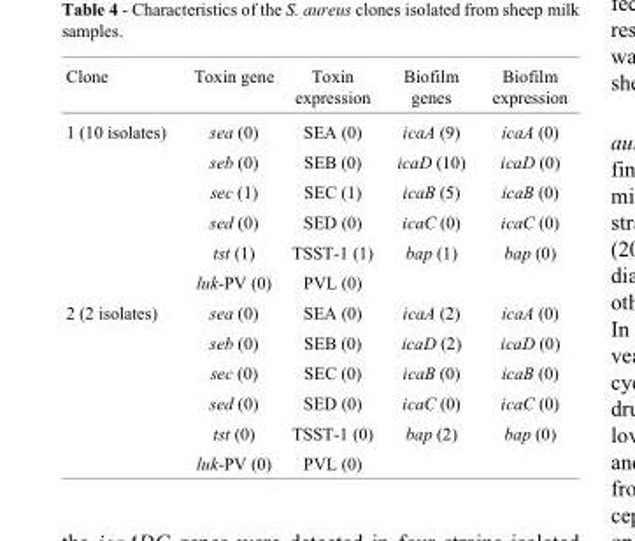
<table><thead><tr><td>Clone</td><td>Toxin gene</td><td>Toxin expression</td><td>Biofilm genes</td><td>Biofilm expression</td></tr></thead><tbody><tr><td rowspan="6">1 (10 isolates)</td><td>sea (0)</td><td>SEA (0)</td><td>icaA (9)</td><td>icaA (0)</td></tr><tr><td>seb (0)</td><td>SEB (0)</td><td>icaD (10)</td><td>icaD (0)</td></tr><tr><td>sec (1)</td><td>SEC (1)</td><td>icaB (5)</td><td>icaB (0)</td></tr><tr><td>sed (0)</td><td>SED (0)</td><td>icaC (0)</td><td>icaC (0)</td></tr><tr><td>tst (1)</td><td>TSST-1 (1)</td><td>bap (1)</td><td>bap (0)</td></tr><tr><td>luk-PV (0)</td><td>PVL (0)</td><td></td><td></td></tr><tr><td rowspan="6">2 (2 isolates)</td><td>sea (0)</td><td>SEA (0)</td><td>icaA (2)</td><td>icaA (0)</td></tr><tr><td>seb (0)</td><td>SEB (0)</td><td>icaD (2)</td><td>icaD (0)</td></tr><tr><td>sec (0)</td><td>SEC (0)</td><td>icaB (0)</td><td>icaB (0)</td></tr><tr><td>sed (0)</td><td>SED (0)</td><td>icaC (0)</td><td>icaC (0)</td></tr><tr><td>tst (0)</td><td>TSST-1 (0)</td><td>bap (2)</td><td>bap (0)</td></tr><tr><td>luk-PV (0)</td><td>PVL (0)</td><td></td><td></td></tr></tbody></table>